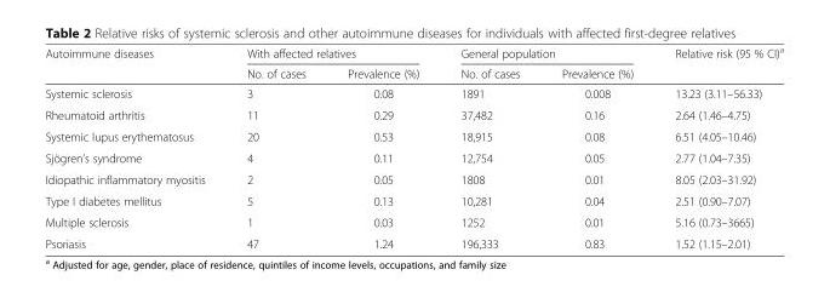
<table><thead><tr><td rowspan="2">Autoimmune diseases</td><td colspan="2">With affected relatives</td><td colspan="2">General population</td><td rowspan="2">Relative risk (95 % CI)<sup>a</sup></td></tr><tr><td>No. of cases</td><td>Prevalence (%)</td><td>No. of cases</td><td>Prevalence (%)</td></tr></thead><tbody><tr><td>Systemic sclerosis</td><td>3</td><td>0.08</td><td>1891</td><td>0.008</td><td>13.23 (3.11–56.33)</td></tr><tr><td>Rheumatoid arthritis</td><td>11</td><td>0.29</td><td>37,482</td><td>0.16</td><td>2.64 (1.46–4.75)</td></tr><tr><td>Systemic lupus erythematosus</td><td>20</td><td>0.53</td><td>18,915</td><td>0.08</td><td>6.51 (4.05–10.46)</td></tr><tr><td>Sjögren’s syndrome</td><td>4</td><td>0.11</td><td>12,754</td><td>0.05</td><td>2.77 (1.04–7.35)</td></tr><tr><td>Idiopathic inflammatory myositis</td><td>2</td><td>0.05</td><td>1808</td><td>0.01</td><td>8.05 (2.03–31.92)</td></tr><tr><td>Type I diabetes mellitus</td><td>5</td><td>0.13</td><td>10,281</td><td>0.04</td><td>2.51 (0.90–7.07)</td></tr><tr><td>Multiple sclerosis</td><td>1</td><td>0.03</td><td>1252</td><td>0.01</td><td>5.16 (0.73–3665)</td></tr><tr><td>Psoriasis</td><td>47</td><td>1.24</td><td>196,333</td><td>0.83</td><td>1.52 (1.15–2.01)</td></tr></tbody></table>